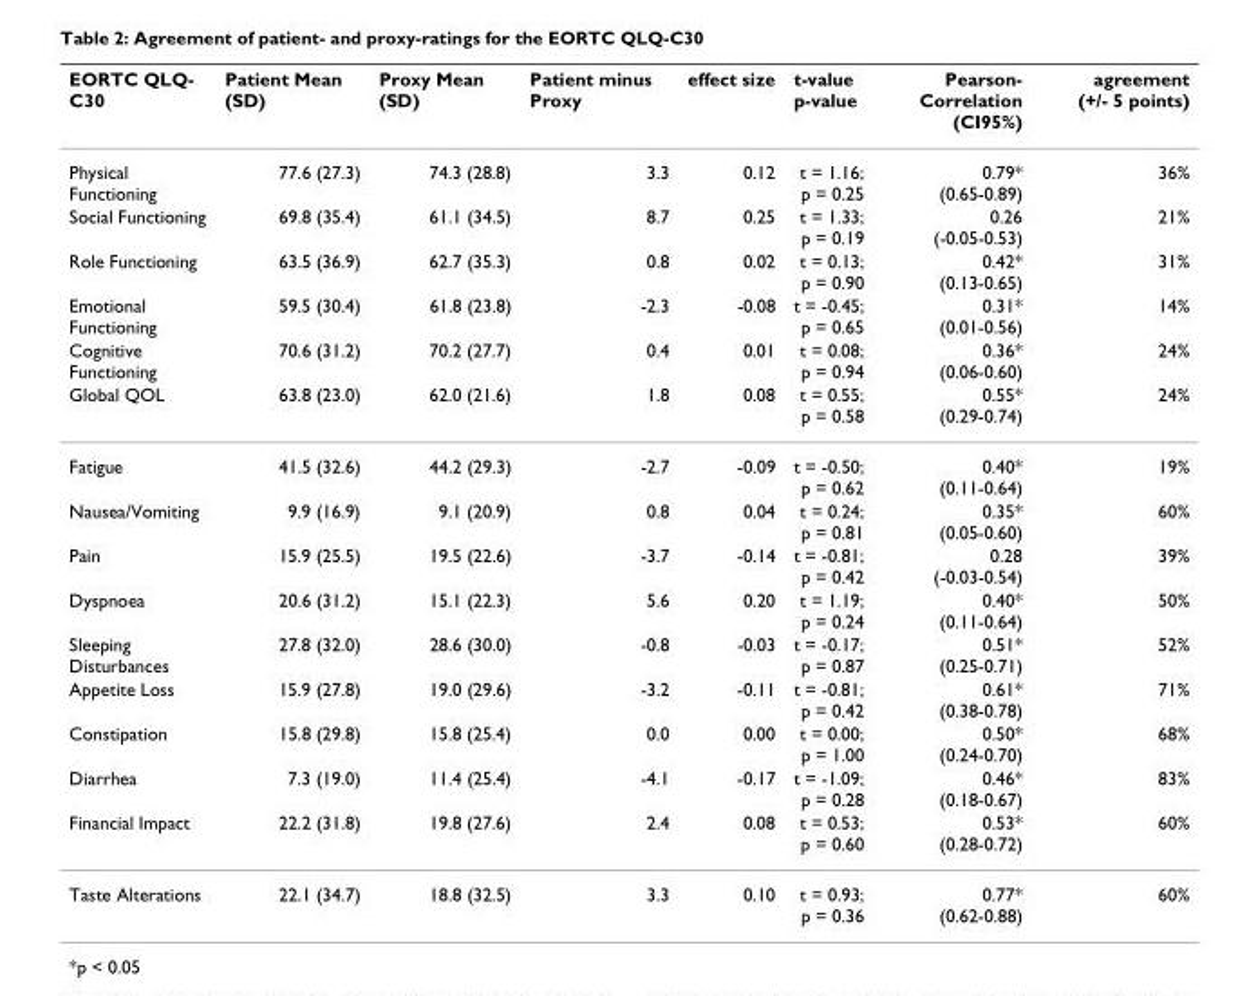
<table><thead><tr><td>EORTC QLQ- C30</td><td>Patient Mean (SD)</td><td>Proxy Mean (SD)</td><td>Patient minus Proxy</td><td>effect size</td><td>t-value p-value</td><td>Pearson- Correlation (CI95%)</td><td>agreement (+/- 5 points)</td></tr></thead><tbody><tr><td>Physical Functioning</td><td>77.6 (27.3)</td><td>74.3 (28.8)</td><td>3.3</td><td>0.12</td><td>t = 1.16; p = 0.25</td><td>0.79* (0.65-0.89)</td><td>36%</td></tr><tr><td>Social Functioning</td><td>69.8 (35.4)</td><td>61.1 (34.5)</td><td>8.7</td><td>0.25</td><td>t = 1.33; p = 0.19</td><td>0.26 (-0.05-0.53)</td><td>21%</td></tr><tr><td>Role Functioning</td><td>63.5 (36.9)</td><td>62.7 (35.3)</td><td>0.8</td><td>0.02</td><td>t = 0.13; p = 0.90</td><td>0.42* (0.13-0.65)</td><td>31%</td></tr><tr><td>Emotional Functioning</td><td>59.5 (30.4)</td><td>61.8 (23.8)</td><td>-2.3</td><td>-0.08</td><td>t = -0.45; p = 0.65</td><td>0.31* (0.01-0.56)</td><td>14%</td></tr><tr><td>Cognitive Functioning</td><td>70.6 (31.2)</td><td>70.2 (27.7)</td><td>0.4</td><td>0.01</td><td>t = 0.08; p = 0.94</td><td>0.36* (0.06-0.60)</td><td>24%</td></tr><tr><td>Global QOL</td><td>63.8 (23.0)</td><td>62.0 (21.6)</td><td>1.8</td><td>0.08</td><td>t = 0.55; p = 0.58</td><td>0.55* (0.29-0.74)</td><td>24%</td></tr><tr><td>Fatigue</td><td>41.5 (32.6)</td><td>44.2 (29.3)</td><td>-2.7</td><td>-0.09</td><td>t = -0.50; p = 0.62</td><td>0.40* (0.11-0.64)</td><td>19%</td></tr><tr><td>Nausea/Vomiting</td><td>9.9 (16.9)</td><td>9.1 (20.9)</td><td>0.8</td><td>0.04</td><td>t = 0.24; p = 0.81</td><td>0.35* (0.05-0.60)</td><td>60%</td></tr><tr><td>Pain</td><td>15.9 (25.5)</td><td>19.5 (22.6)</td><td>-3.7</td><td>-0.14</td><td>t = -0.81; p = 0.42</td><td>0.28 (-0.03-0.54)</td><td>39%</td></tr><tr><td>Dyspnoea</td><td>20.6 (31.2)</td><td>15.1 (22.3)</td><td>5.6</td><td>0.20</td><td>t = 1.19; p = 0.24</td><td>0.40* (0.11-0.64)</td><td>50%</td></tr><tr><td>Sleeping Disturbances</td><td>27.8 (32.0)</td><td>28.6 (30.0)</td><td>-0.8</td><td>-0.03</td><td>t = -0.17; p = 0.87</td><td>0.51* (0.25-0.71)</td><td>52%</td></tr><tr><td>Appetite Loss</td><td>15.9 (27.8)</td><td>19.0 (29.6)</td><td>-3.2</td><td>-0.11</td><td>t = -0.81; p = 0.42</td><td>0.61* (0.38-0.78)</td><td>71%</td></tr><tr><td>Constipation</td><td>15.8 (29.8)</td><td>15.8 (25.4)</td><td>0.0</td><td>0.00</td><td>t = 0.00; p = 1.00</td><td>0.50* (0.24-0.70)</td><td>68%</td></tr><tr><td>Diarrhea</td><td>7.3 (19.0)</td><td>11.4 (25.4)</td><td>-4.1</td><td>-0.17</td><td>t = -1.09; p = 0.28</td><td>0.46* (0.18-0.67)</td><td>83%</td></tr><tr><td>Financial Impact</td><td>22.2 (31.8)</td><td>19.8 (27.6)</td><td>2.4</td><td>0.08</td><td>t = 0.53; p = 0.60</td><td>0.53* (0.28-0.72)</td><td>60%</td></tr><tr><td>Taste Alterations</td><td>22.1 (34.7)</td><td>18.8 (32.5)</td><td>3.3</td><td>0.10</td><td>t = 0.93; p = 0.36</td><td>0.77* (0.62-0.88)</td><td>60%</td></tr></tbody></table>